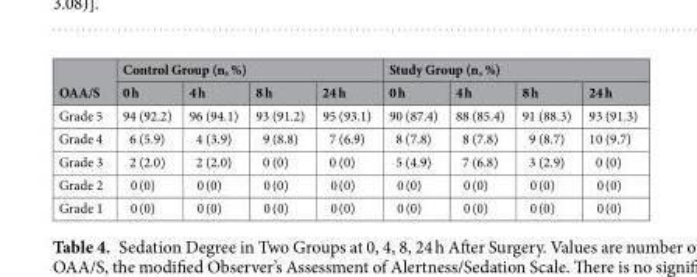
<table><thead><tr><td rowspan="2">OAA/S</td><td colspan="4">Control Group (n, %)</td><td colspan="4">Study Group (n, %)</td></tr><tr><td>0 h</td><td>4 h</td><td>8 h</td><td>24 h</td><td>0 h</td><td>4 h</td><td>8 h</td><td>24 h</td></tr></thead><tbody><tr><td>Grade 5</td><td>94 (92.2)</td><td>96 (94.1)</td><td>93 (91.2)</td><td>95 (93.1)</td><td>90 (87.4)</td><td>88 (85.4)</td><td>91 (88.3)</td><td>93 (91.3)</td></tr><tr><td>Grade 4</td><td>6 (5.9)</td><td>4 (3.9)</td><td>9 (8.8)</td><td>7 (6.9)</td><td>8 (7.8)</td><td>8 (7.8)</td><td>9 (8.7)</td><td>10 (9.7)</td></tr><tr><td>Grade 3</td><td>2 (2.0)</td><td>2 (2.0)</td><td>0 (0)</td><td>0 (0)</td><td>5 (4.9)</td><td>7 (6.8)</td><td>3 (2.9)</td><td>0 (0)</td></tr><tr><td>Grade 2</td><td>0 (0)</td><td>0 (0)</td><td>0 (0)</td><td>0 (0)</td><td>0 (0)</td><td>0 (0)</td><td>0 (0)</td><td>0 (0)</td></tr><tr><td>Grade 1</td><td>0 (0)</td><td>0 (0)</td><td>0 (0)</td><td>0 (0)</td><td>0 (0)</td><td>0 (0)</td><td>0 (0)</td><td>0 (0)</td></tr></tbody></table>